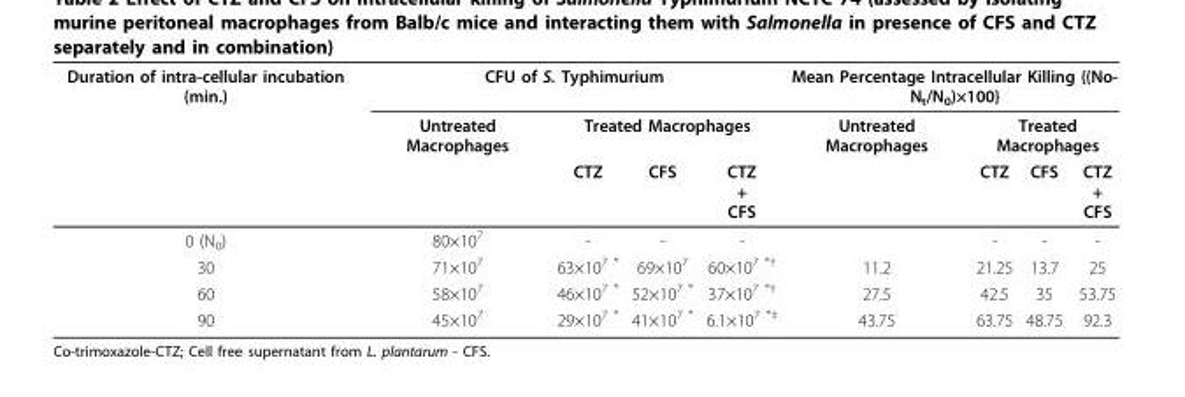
<table><thead><tr><td rowspan="3">Duration of intra-cellular incubation (min.)</td><td colspan="4">CFU of S. Typhimurium</td><td colspan="4">Mean Percentage Intracellular Killing {(No- N<sub>t</sub>/N<sub>0</sub>)×100}</td></tr><tr><td rowspan="2">Untreated Macrophages</td><td colspan="3">Treated Macrophages</td><td rowspan="2">Untreated Macrophages</td><td colspan="3">Treated Macrophages</td></tr><tr><td>CTZ</td><td>CFS</td><td>CTZ + CFS</td><td>CTZ</td><td>CFS</td><td>CTZ + CFS</td></tr></thead><tbody><tr><td>0 (N<sub>0</sub>)</td><td>80×10<sup>7</sup></td><td>-</td><td>-</td><td>-</td><td></td><td>-</td><td>-</td><td>-</td></tr><tr><td>30</td><td>71×10<sup>7</sup></td><td>63×10<sup>7 *</sup></td><td>69×10<sup>7</sup></td><td>60×10<sup>7 *†</sup></td><td>11.2</td><td>21.25</td><td>13.7</td><td>25</td></tr><tr><td>60</td><td>58×10<sup>7</sup></td><td>46×10<sup>7 *</sup></td><td>52×10<sup>7 *</sup></td><td>37×10<sup>7 *†</sup></td><td>27.5</td><td>42.5</td><td>35</td><td>53.75</td></tr><tr><td>90</td><td>45×10<sup>7</sup></td><td>29×10<sup>7 *</sup></td><td>41×10<sup>7 *</sup></td><td>6.1×10<sup>7 *‡</sup></td><td>43.75</td><td>63.75</td><td>48.75</td><td>92.3</td></tr></tbody></table>